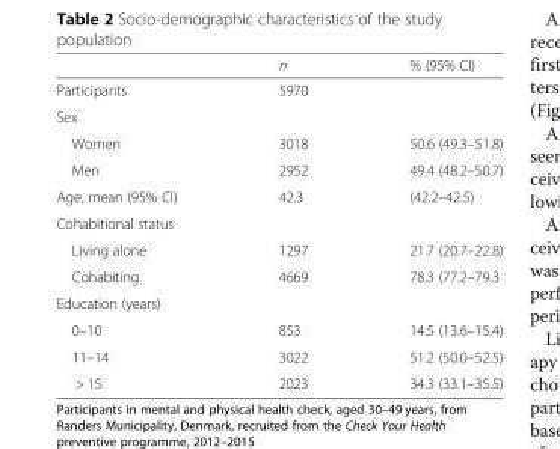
<table><thead><tr><td></td><td>n</td><td>% (95% CI)</td></tr></thead><tbody><tr><td>Participants</td><td>5970</td><td></td></tr><tr><td colspan="3">Sex</td></tr><tr><td>Women</td><td>3018</td><td>50.6 (49.3–51.8)</td></tr><tr><td>Men</td><td>2952</td><td>49.4 (48.2–50.7)</td></tr><tr><td>Age, mean (95% CI)</td><td>42.3</td><td>(42.2–42.5)</td></tr><tr><td colspan="3">Cohabitional status</td></tr><tr><td>Living alone</td><td>1297</td><td>21.7 (20.7–22.8)</td></tr><tr><td>Cohabiting</td><td>4669</td><td>78.3 (77.2–79.3</td></tr><tr><td colspan="3">Education (years)</td></tr><tr><td>0–10</td><td>853</td><td>14.5 (13.6–15.4)</td></tr><tr><td>11–14</td><td>3022</td><td>51.2 (50.0–52.5)</td></tr><tr><td>&gt; 15</td><td>2023</td><td>34.3 (33.1–35.5)</td></tr></tbody></table>